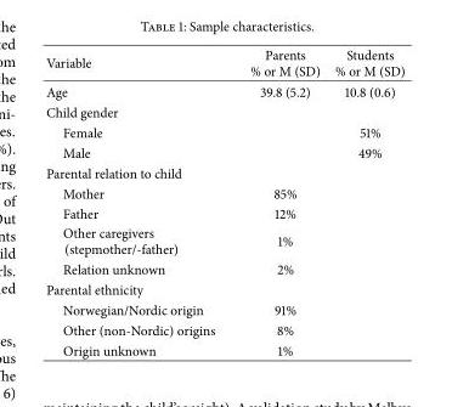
<table><thead><tr><td>Variable</td><td>Parents % or M (SD)</td><td>Students % or M (SD)</td></tr></thead><tbody><tr><td>Age</td><td>39.8 (5.2)</td><td>10.8 (0.6)</td></tr><tr><td colspan="3">Child gender</td></tr><tr><td>Female</td><td></td><td>51%</td></tr><tr><td>Male</td><td></td><td>49%</td></tr><tr><td colspan="3">Parental relation to child</td></tr><tr><td>Mother</td><td>85%</td><td></td></tr><tr><td>Father</td><td>12%</td><td></td></tr><tr><td>Other caregivers (stepmother/-father)</td><td>1%</td><td></td></tr><tr><td>Relation unknown</td><td>2%</td><td></td></tr><tr><td colspan="3">Parental ethnicity</td></tr><tr><td>Norwegian/Nordic origin</td><td>91%</td><td></td></tr><tr><td>Other (non-Nordic) origins</td><td>8%</td><td></td></tr><tr><td>Origin unknown</td><td>1%</td><td></td></tr></tbody></table>